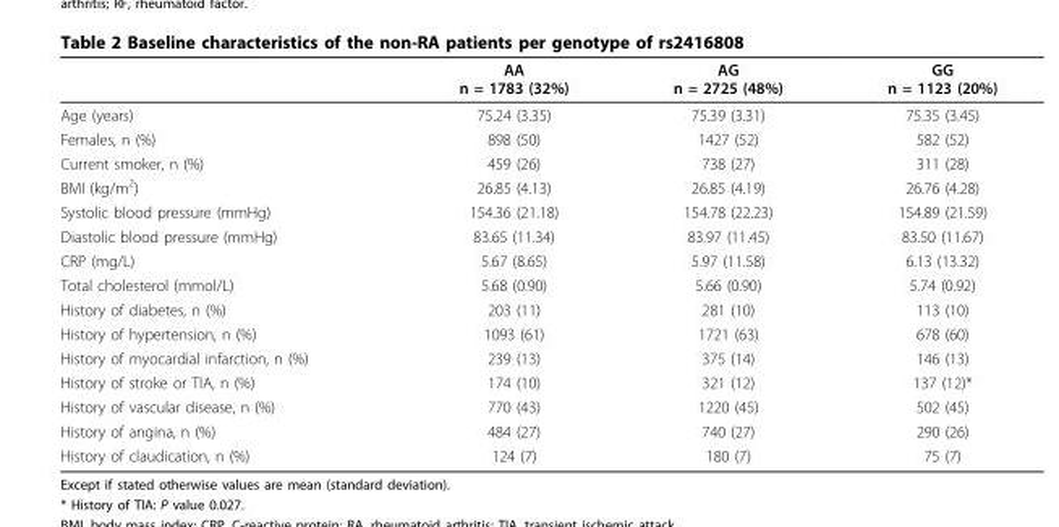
<table><thead><tr><td></td><td>AA n = 1783 (32%)</td><td>AG n = 2725 (48%)</td><td>GG n = 1123 (20%)</td></tr></thead><tbody><tr><td>Age (years)</td><td>75.24 (3.35)</td><td>75.39 (3.31)</td><td>75.35 (3.45)</td></tr><tr><td>Females, n (%)</td><td>898 (50)</td><td>1427 (52)</td><td>582 (52)</td></tr><tr><td>Current smoker, n (%)</td><td>459 (26)</td><td>738 (27)</td><td>311 (28)</td></tr><tr><td>BMI (kg/m<sup>2</sup>)</td><td>26.85 (4.13)</td><td>26.85 (4.19)</td><td>26.76 (4.28)</td></tr><tr><td>Systolic blood pressure (mmHg)</td><td>154.36 (21.18)</td><td>154.78 (22.23)</td><td>154.89 (21.59)</td></tr><tr><td>Diastolic blood pressure (mmHg)</td><td>83.65 (11.34)</td><td>83.97 (11.45)</td><td>83.50 (11.67)</td></tr><tr><td>CRP (mg/L)</td><td>5.67 (8.65)</td><td>5.97 (11.58)</td><td>6.13 (13.32)</td></tr><tr><td>Total cholesterol (mmol/L)</td><td>5.68 (0.90)</td><td>5.66 (0.90)</td><td>5.74 (0.92)</td></tr><tr><td>History of diabetes, n (%)</td><td>203 (11)</td><td>281 (10)</td><td>113 (10)</td></tr><tr><td>History of hypertension, n (%)</td><td>1093 (61)</td><td>1721 (63)</td><td>678 (60)</td></tr><tr><td>History of myocardial infarction, n (%)</td><td>239 (13)</td><td>375 (14)</td><td>146 (13)</td></tr><tr><td>History of stroke or TIA, n (%)</td><td>174 (10)</td><td>321 (12)</td><td>137 (12)*</td></tr><tr><td>History of vascular disease, n (%)</td><td>770 (43)</td><td>1220 (45)</td><td>502 (45)</td></tr><tr><td>History of angina, n (%)</td><td>484 (27)</td><td>740 (27)</td><td>290 (26)</td></tr><tr><td>History of claudication, n (%)</td><td>124 (7)</td><td>180 (7)</td><td>75 (7)</td></tr></tbody></table>